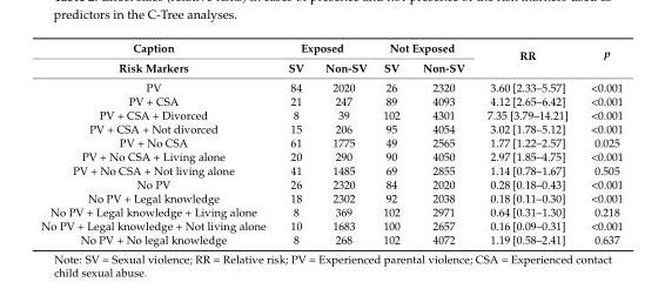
<table><thead><tr><td rowspan="2">Caption Risk Markers</td><td colspan="2">Exposed</td><td colspan="2">Not Exposed</td><td rowspan="2">RR</td><td rowspan="2">p</td></tr><tr><td>SV</td><td>Non-SV</td><td>SV</td><td>Non-SV</td></tr></thead><tbody><tr><td>PV</td><td>84</td><td>2020</td><td>26</td><td>2320</td><td>3.60 [2.33–5.57]</td><td>&lt;0.001</td></tr><tr><td>PV + CSA</td><td>21</td><td>247</td><td>89</td><td>4093</td><td>4.12 [2.65–6.42]</td><td>&lt;0.001</td></tr><tr><td>PV + CSA + Divorced</td><td>8</td><td>39</td><td>102</td><td>4301</td><td>7.35 [3.79–14.21]</td><td>&lt;0.001</td></tr><tr><td>PV + CSA + Not divorced</td><td>15</td><td>206</td><td>95</td><td>4054</td><td>3.02 [1.78–5.12]</td><td>&lt;0.001</td></tr><tr><td>PV + No CSA</td><td>61</td><td>1775</td><td>49</td><td>2565</td><td>1.77 [1.22–2.57]</td><td>0.025</td></tr><tr><td>PV + No CSA + Living alone</td><td>20</td><td>290</td><td>90</td><td>4050</td><td>2.97 [1.85–4.75]</td><td>&lt;0.001</td></tr><tr><td>PV + No CSA + Not living alone</td><td>41</td><td>1485</td><td>69</td><td>2855</td><td>1.14 [0.78–1.67]</td><td>0.505</td></tr><tr><td>No PV</td><td>26</td><td>2320</td><td>84</td><td>2020</td><td>0.28 [0.18–0.43]</td><td>&lt;0.001</td></tr><tr><td>No PV + Legal knowledge</td><td>18</td><td>2302</td><td>92</td><td>2038</td><td>0.18 [0.11–0.30]</td><td>&lt;0.001</td></tr><tr><td>No PV + Legal knowledge + Living alone</td><td>8</td><td>369</td><td>102</td><td>2971</td><td>0.64 [0.31–1.30]</td><td>0.218</td></tr><tr><td>No PV + Legal knowledge + Not living alone</td><td>10</td><td>1683</td><td>100</td><td>2657</td><td>0.16 [0.09–0.31]</td><td>&lt;0.001</td></tr><tr><td>No PV + No legal knowledge</td><td>8</td><td>268</td><td>102</td><td>4072</td><td>1.19 [0.58–2.41]</td><td>0.637</td></tr></tbody></table>